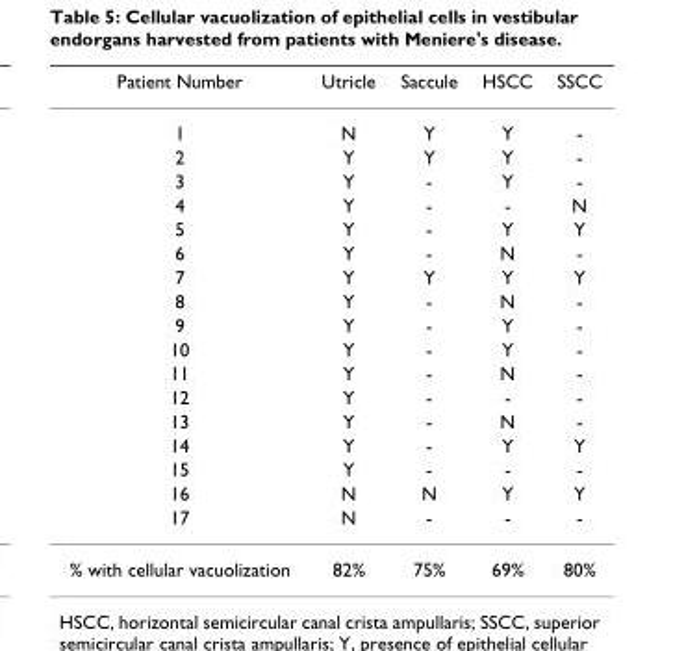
<table><thead><tr><td>Patient Number</td><td>Utricle</td><td>Saccule</td><td>HSCC</td><td>SSCC</td></tr></thead><tbody><tr><td>1</td><td>N</td><td>Y</td><td>Y</td><td>-</td></tr><tr><td>2</td><td>Y</td><td>Y</td><td>Y</td><td>-</td></tr><tr><td>3</td><td>Y</td><td>-</td><td>Y</td><td>-</td></tr><tr><td>4</td><td>Y</td><td>-</td><td>-</td><td>N</td></tr><tr><td>5</td><td>Y</td><td>-</td><td>Y</td><td>Y</td></tr><tr><td>6</td><td>Y</td><td>-</td><td>N</td><td>-</td></tr><tr><td>7</td><td>Y</td><td>Y</td><td>Y</td><td>Y</td></tr><tr><td>8</td><td>Y</td><td>-</td><td>N</td><td>-</td></tr><tr><td>9</td><td>Y</td><td>-</td><td>Y</td><td>-</td></tr><tr><td>10</td><td>Y</td><td>-</td><td>Y</td><td>-</td></tr><tr><td>11</td><td>Y</td><td>-</td><td>N</td><td>-</td></tr><tr><td>12</td><td>Y</td><td>-</td><td>-</td><td>-</td></tr><tr><td>13</td><td>Y</td><td>-</td><td>N</td><td>-</td></tr><tr><td>14</td><td>Y</td><td>-</td><td>Y</td><td>Y</td></tr><tr><td>15</td><td>Y</td><td>-</td><td>-</td><td>-</td></tr><tr><td>16</td><td>N</td><td>N</td><td>Y</td><td>Y</td></tr><tr><td>17</td><td>N</td><td>-</td><td>-</td><td>-</td></tr><tr><td>% with cellular vacuolization</td><td>82%</td><td>75%</td><td>69%</td><td>80%</td></tr></tbody></table>